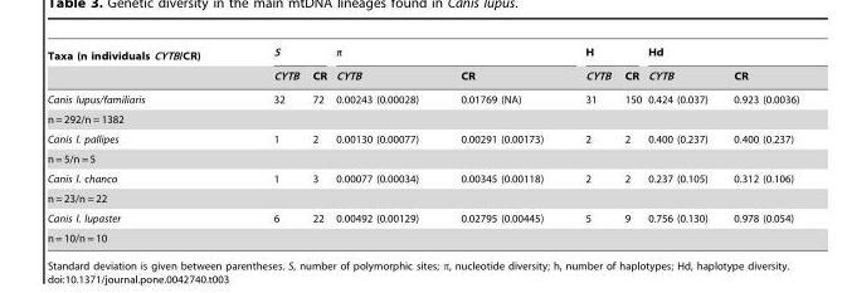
<table><thead><tr><td rowspan="2">Taxa (n individuals CYTB/CR)</td><td colspan="2">S</td><td colspan="2">π</td><td colspan="2">H</td><td colspan="2">Hd</td></tr><tr><td>CYTB</td><td>CR</td><td>CYTB</td><td>CR</td><td>CYTB</td><td>CR</td><td>CYTB</td><td>CR</td></tr></thead><tbody><tr><td>Canis lupus/familiaris</td><td>32</td><td>72</td><td>0.00243 (0.00028)</td><td>0.01769 (NA)</td><td>31</td><td>150</td><td>0.424 (0.037)</td><td>0.923 (0.0036)</td></tr><tr><td colspan="9">n = 292/n = 1382</td></tr><tr><td>Canis l. pallipes</td><td>1</td><td>2</td><td>0.00130 (0.00077)</td><td>0.00291 (0.00173)</td><td>2</td><td>2</td><td>0.400 (0.237)</td><td>0.400 (0.237)</td></tr><tr><td colspan="9">n = 5/n = 5</td></tr><tr><td>Canis l. chanco</td><td>1</td><td>3</td><td>0.00077 (0.00034)</td><td>0.00345 (0.00118)</td><td>2</td><td>2</td><td>0.237 (0.105)</td><td>0.312 (0.106)</td></tr><tr><td colspan="9">n = 23/n = 22</td></tr><tr><td>Canis l. lupaster</td><td>6</td><td>22</td><td>0.00492 (0.00129)</td><td>0.02795 (0.00445)</td><td>5</td><td>9</td><td>0.756 (0.130)</td><td>0.978 (0.054)</td></tr><tr><td colspan="9">n = 10/n = 10</td></tr></tbody></table>